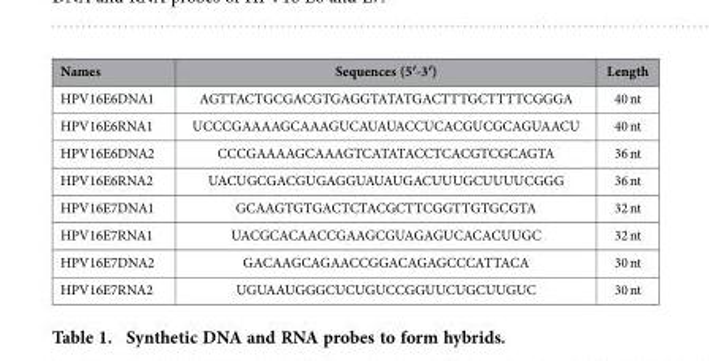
<table><thead><tr><td>Names</td><td>Sequences (5′-3′)</td><td>Length</td></tr></thead><tbody><tr><td>HPV16E6DNA1</td><td>AGTTACTGCGACGTGAGGTATATGACTTTGCTTTTCGGGA</td><td>40 nt</td></tr><tr><td>HPV16E6RNA1</td><td>UCCCGAAAAGCAAAGUCAUAUACCUCACGUCGCAGUAACU</td><td>40 nt</td></tr><tr><td>HPV16E6DNA2</td><td>CCCGAAAAGCAAAGTCATATACCTCACGTCGCAGTA</td><td>36 nt</td></tr><tr><td>HPV16E6RNA2</td><td>UACUGCGACGUGAGGUAUAUGACUUUGCUUUUCGGG</td><td>36 nt</td></tr><tr><td>HPV16E7DNA1</td><td>GCAAGTGTGACTCTACGCTTCGGTTGTGCGTA</td><td>32 nt</td></tr><tr><td>HPV16E7RNA1</td><td>UACGCACAACCGAAGCGUAGAGUCACACUUGC</td><td>32 nt</td></tr><tr><td>HPV16E7DNA2</td><td>GACAAGCAGAACCGGACAGAGCCCATTACA</td><td>30 nt</td></tr><tr><td>HPV16E7RNA2</td><td>UGUAAUGGGCUCUGUCCGGUUCUGCUUGUC</td><td>30 nt</td></tr></tbody></table>